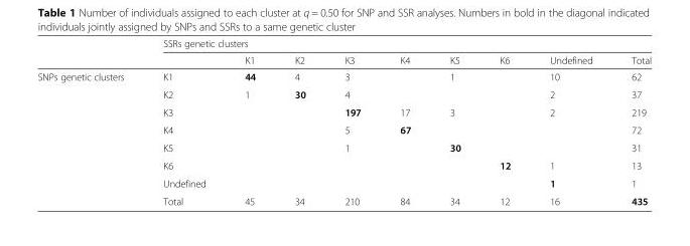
<table><thead><tr><td rowspan="2"></td><td colspan="9">SSRs genetic clusters</td></tr><tr><td></td><td>K1</td><td>K2</td><td>K3</td><td>K4</td><td>K5</td><td>K6</td><td>Undefined</td><td>Total</td></tr></thead><tbody><tr><td rowspan="8">SNPs genetic clusters</td><td>K1</td><td>44</td><td>4</td><td>3</td><td></td><td>1</td><td></td><td>10</td><td>62</td></tr><tr><td>K2</td><td>1</td><td>30</td><td>4</td><td></td><td></td><td></td><td>2</td><td>37</td></tr><tr><td>K3</td><td></td><td></td><td>197</td><td>17</td><td>3</td><td></td><td>2</td><td>219</td></tr><tr><td>K4</td><td></td><td></td><td>5</td><td>67</td><td></td><td></td><td></td><td>72</td></tr><tr><td>K5</td><td></td><td></td><td>1</td><td></td><td>30</td><td></td><td></td><td>31</td></tr><tr><td>K6</td><td></td><td></td><td></td><td></td><td></td><td>12</td><td>1</td><td>13</td></tr><tr><td>Undefined</td><td></td><td></td><td></td><td></td><td></td><td></td><td>1</td><td>1</td></tr><tr><td>Total</td><td>45</td><td>34</td><td>210</td><td>84</td><td>34</td><td>12</td><td>16</td><td>435</td></tr></tbody></table>